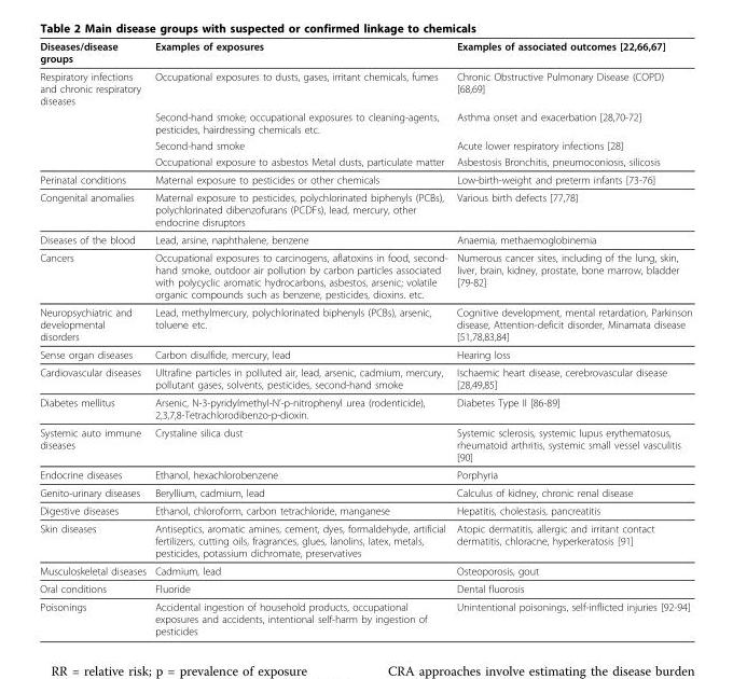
<table><thead><tr><td>Diseases/disease groups</td><td>Examples of exposures</td><td>Examples of associated outcomes [22,66,67]</td></tr></thead><tbody><tr><td rowspan="4">Respiratory infections and chronic respiratory diseases</td><td>Occupational exposures to dusts, gases, irritant chemicals, fumes</td><td>Chronic Obstructive Pulmonary Disease (COPD) [68,69]</td></tr><tr><td>Second-hand smoke; occupational exposures to cleaning-agents, pesticides, hairdressing chemicals etc.</td><td>Asthma onset and exacerbation [28,70-72]</td></tr><tr><td>Second-hand smoke</td><td>Acute lower respiratory infections [28]</td></tr><tr><td>Occupational exposure to asbestos Metal dusts, particulate matter</td><td>Asbestosis Bronchitis, pneumoconiosis, silicosis</td></tr><tr><td>Perinatal conditions</td><td>Maternal exposure to pesticides or other chemicals</td><td>Low-birth-weight and preterm infants [73-76]</td></tr><tr><td>Congenital anomalies</td><td>Maternal exposure to pesticides, polychlorinated biphenyls (PCBs), polychlorinated dibenzofurans (PCDFs), lead, mercury, other endocrine disruptors</td><td>Various birth defects [77,78]</td></tr><tr><td>Diseases of the blood</td><td>Lead, arsine, naphthalene, benzene</td><td>Anaemia, methaemoglobinemia</td></tr><tr><td>Cancers</td><td>Occupational exposures to carcinogens, aflatoxins in food, second- hand smoke, outdoor air pollution by carbon particles associated with polycyclic aromatic hydrocarbons, asbestos, arsenic; volatile organic compounds such as benzene, pesticides, dioxins. etc.</td><td>Numerous cancer sites, including of the lung, skin, liver, brain, kidney, prostate, bone marrow, bladder [79-82]</td></tr><tr><td>Neuropsychiatric and developmental disorders</td><td>Lead, methylmercury, polychlorinated biphenyls (PCBs), arsenic, toluene etc.</td><td>Cognitive development, mental retardation, Parkinson disease, Attention-deficit disorder, Minamata disease [51,78,83,84]</td></tr><tr><td>Sense organ diseases</td><td>Carbon disulfide, mercury, lead</td><td>Hearing loss</td></tr><tr><td>Cardiovascular diseases</td><td>Ultrafine particles in polluted air, lead, arsenic, cadmium, mercury, pollutant gases, solvents, pesticides, second-hand smoke</td><td>Ischaemic heart disease, cerebrovascular disease [28,49,85]</td></tr><tr><td>Diabetes mellitus</td><td>Arsenic, N-3-pyridylmethyl-N’-p-nitrophenyl urea (rodenticide), 2,3,7,8-Tetrachlorodibenzo-p-dioxin.</td><td>Diabetes Type II [86-89]</td></tr><tr><td>Systemic auto immune diseases</td><td>Crystaline silica dust</td><td>Systemic sclerosis, systemic lupus erythematosus, rheumatoid arthritis, systemic small vessel vasculitis [90]</td></tr><tr><td>Endocrine diseases</td><td>Ethanol, hexachlorobenzene</td><td>Porphyria</td></tr><tr><td>Genito-urinary diseases</td><td>Beryllium, cadmium, lead</td><td>Calculus of kidney, chronic renal disease</td></tr><tr><td>Digestive diseases</td><td>Ethanol, chloroform, carbon tetrachloride, manganese</td><td>Hepatitis, cholestasis, pancreatitis</td></tr><tr><td>Skin diseases</td><td>Antiseptics, aromatic amines, cement, dyes, formaldehyde, artificial fertilizers, cutting oils, fragrances, glues, lanolins, latex, metals, pesticides, potassium dichromate, preservatives</td><td>Atopic dermatitis, allergic and irritant contact dermatitis, chloracne, hyperkeratosis [91]</td></tr><tr><td>Musculoskeletal diseases</td><td>Cadmium, lead</td><td>Osteoporosis, gout</td></tr><tr><td>Oral conditions</td><td>Fluoride</td><td>Dental fluorosis</td></tr><tr><td>Poisonings</td><td>Accidental ingestion of household products, occupational exposures and accidents, intentional self-harm by ingestion of pesticides</td><td>Unintentional poisonings, self-inflicted injuries [92-94]</td></tr></tbody></table>